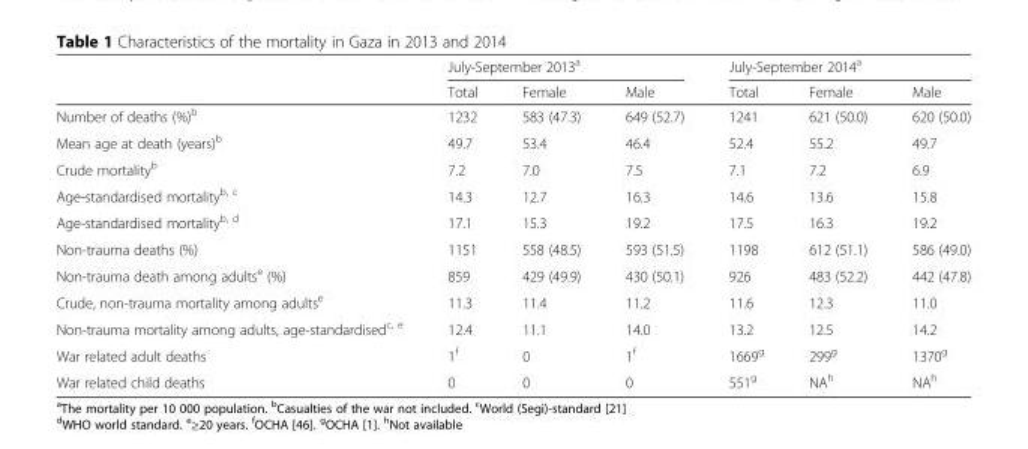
<table><thead><tr><td rowspan="2"></td><td colspan="3">July-September 2013<sup>a</sup></td><td colspan="3">July-September 2014<sup>a</sup></td></tr><tr><td>Total</td><td>Female</td><td>Male</td><td>Total</td><td>Female</td><td>Male</td></tr></thead><tbody><tr><td>Number of deaths (%)<sup>b</sup></td><td>1232</td><td>583 (47.3)</td><td>649 (52.7)</td><td>1241</td><td>621 (50.0)</td><td>620 (50.0)</td></tr><tr><td>Mean age at death (years)<sup>b</sup></td><td>49.7</td><td>53.4</td><td>46.4</td><td>52.4</td><td>55.2</td><td>49.7</td></tr><tr><td>Crude mortality<sup>b</sup></td><td>7.2</td><td>7.0</td><td>7.5</td><td>7.1</td><td>7.2</td><td>6.9</td></tr><tr><td>Age-standardised mortality<sup>b, c</sup></td><td>14.3</td><td>12.7</td><td>16.3</td><td>14.6</td><td>13.6</td><td>15.8</td></tr><tr><td>Age-standardised mortality<sup>b, d</sup></td><td>17.1</td><td>15.3</td><td>19.2</td><td>17.5</td><td>16.3</td><td>19.2</td></tr><tr><td>Non-trauma deaths (%)</td><td>1151</td><td>558 (48.5)</td><td>593 (51.5)</td><td>1198</td><td>612 (51.1)</td><td>586 (49.0)</td></tr><tr><td>Non-trauma death among adults<sup>e</sup> (%)</td><td>859</td><td>429 (49.9)</td><td>430 (50.1)</td><td>926</td><td>483 (52.2)</td><td>442 (47.8)</td></tr><tr><td>Crude, non-trauma mortality among adults<sup>e</sup></td><td>11.3</td><td>11.4</td><td>11.2</td><td>11.6</td><td>12.3</td><td>11.0</td></tr><tr><td>Non-trauma mortality among adults, age-standardised<sup>c, e</sup></td><td>12.4</td><td>11.1</td><td>14.0</td><td>13.2</td><td>12.5</td><td>14.2</td></tr><tr><td>War related adult deaths</td><td>1<sup>f</sup></td><td>0</td><td>1<sup>f</sup></td><td>1669<sup>g</sup></td><td>299<sup>g</sup></td><td>1370<sup>g</sup></td></tr><tr><td>War related child deaths</td><td>0</td><td>0</td><td>0</td><td>551<sup>g</sup></td><td>NA<sup>h</sup></td><td>NA<sup>h</sup></td></tr></tbody></table>